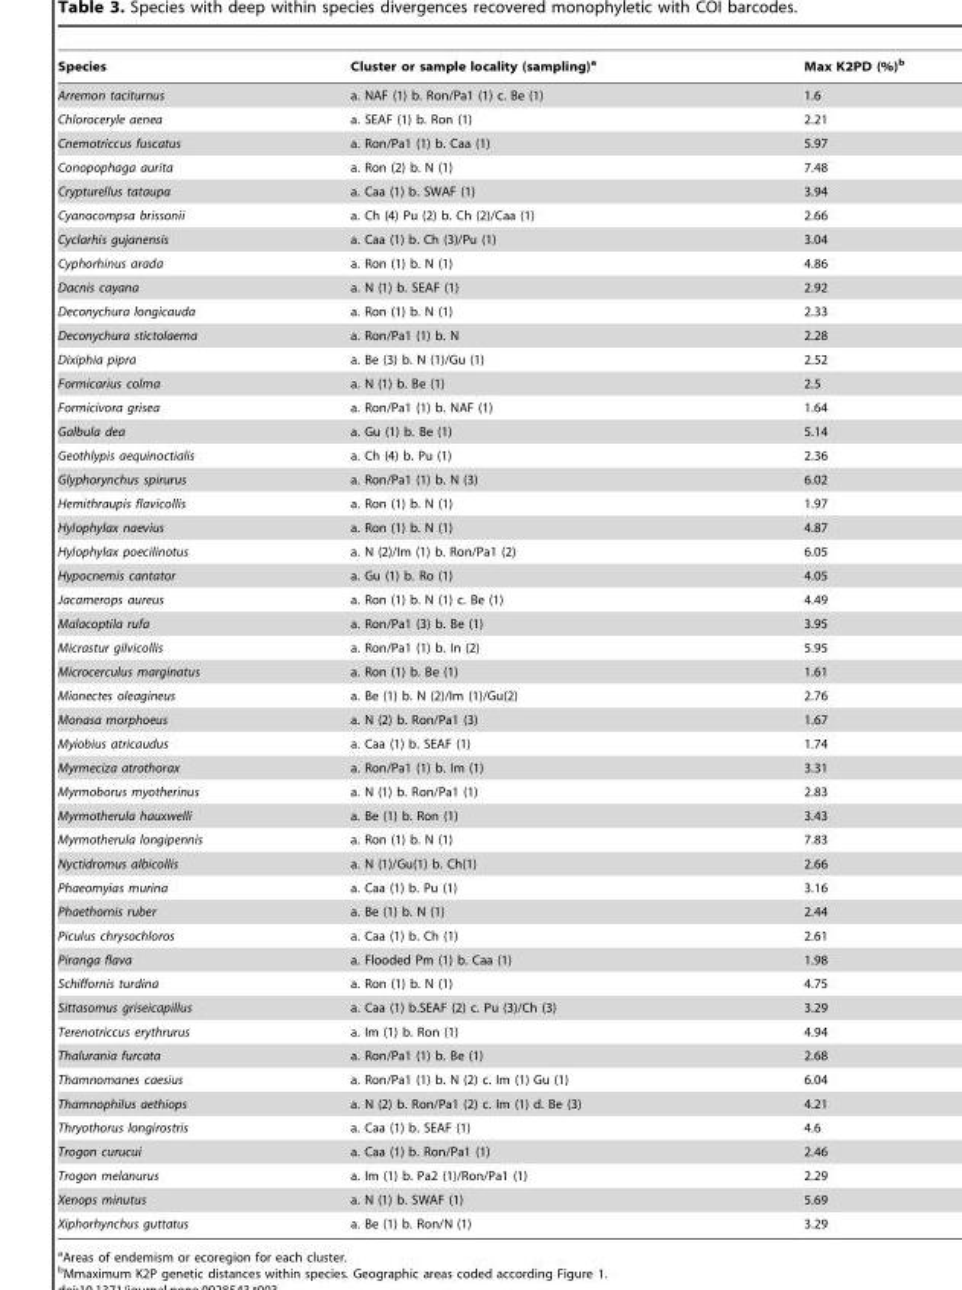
<table><thead><tr><td>Species</td><td>Cluster or sample locality (sampling)<sup>a</sup></td><td>Max K2PD (%)<sup>b</sup></td></tr></thead><tbody><tr><td>Arremon taciturnus</td><td>a. NAF (1) b. Ron/Pa1 (1) c. Be (1)</td><td>1.6</td></tr><tr><td>Chloroceryle aenea</td><td>a. SEAF (1) b. Ron (1)</td><td>2.21</td></tr><tr><td>Cnemotriccus fuscatus</td><td>a. Ron/Pa1 (1) b. Caa (1)</td><td>5.97</td></tr><tr><td>Conopophaga aurita</td><td>a. Ron (2) b. N (1)</td><td>7.48</td></tr><tr><td>Crypturellus tataupa</td><td>a. Caa (1) b. SWAF (1)</td><td>3.94</td></tr><tr><td>Cyanocompsa brissonii</td><td>a. Ch (4) Pu (2) b. Ch (2)/Caa (1)</td><td>2.66</td></tr><tr><td>Cyclarhis gujanensis</td><td>a. Caa (1) b. Ch (3)/Pu (1)</td><td>3.04</td></tr><tr><td>Cyphorhinus arada</td><td>a. Ron (1) b. N (1)</td><td>4.86</td></tr><tr><td>Dacnis cayana</td><td>a. N (1) b. SEAF (1)</td><td>2.92</td></tr><tr><td>Deconychura longicauda</td><td>a. Ron (1) b. N (1)</td><td>2.33</td></tr><tr><td>Deconychura stictolaema</td><td>a. Ron/Pa1 (1) b. N</td><td>2.28</td></tr><tr><td>Dixiphia pipra</td><td>a. Be (3) b. N (1)/Gu (1)</td><td>2.52</td></tr><tr><td>Formicarius colma</td><td>a. N (1) b. Be (1)</td><td>2.5</td></tr><tr><td>Formicivora grisea</td><td>a. Ron/Pa1 (1) b. NAF (1)</td><td>1.64</td></tr><tr><td>Galbula dea</td><td>a. Gu (1) b. Be (1)</td><td>5.14</td></tr><tr><td>Geothlypis aequinoctialis</td><td>a. Ch (4) b. Pu (1)</td><td>2.36</td></tr><tr><td>Glyphorynchus spirurus</td><td>a. Ron/Pa1 (1) b. N (3)</td><td>6.02</td></tr><tr><td>Hemithraupis flavicollis</td><td>a. Ron (1) b. N (1)</td><td>1.97</td></tr><tr><td>Hylophylax naevius</td><td>a. Ron (1) b. N (1)</td><td>4.87</td></tr><tr><td>Hylophylax poecilinotus</td><td>a. N (2)/Im (1) b. Ron/Pa1 (2)</td><td>6.05</td></tr><tr><td>Hypocnemis cantator</td><td>a. Gu (1) b. Ro (1)</td><td>4.05</td></tr><tr><td>Jacamerops aureus</td><td>a. Ron (1) b. N (1) c. Be (1)</td><td>4.49</td></tr><tr><td>Malacoptila rufa</td><td>a. Ron/Pa1 (3) b. Be (1)</td><td>3.95</td></tr><tr><td>Micrastur gilvicollis</td><td>a. Ron/Pa1 (1) b. In (2)</td><td>5.95</td></tr><tr><td>Microcerculus marginatus</td><td>a. Ron (1) b. Be (1)</td><td>1.61</td></tr><tr><td>Mionectes oleagineus</td><td>a. Be (1) b. N (2)/Im (1)/Gu(2)</td><td>2.76</td></tr><tr><td>Monasa morphoeus</td><td>a. N (2) b. Ron/Pa1 (3)</td><td>1.67</td></tr><tr><td>Myiobius atricaudus</td><td>a. Caa (1) b. SEAF (1)</td><td>1.74</td></tr><tr><td>Myrmeciza atrothorax</td><td>a. Ron/Pa1 (1) b. Im (1)</td><td>3.31</td></tr><tr><td>Myrmoborus myotherinus</td><td>a. N (1) b. Ron/Pa1 (1)</td><td>2.83</td></tr><tr><td>Myrmotherula hauxwelli</td><td>a. Be (1) b. Ron (1)</td><td>3.43</td></tr><tr><td>Myrmotherula longipennis</td><td>a. Ron (1) b. N (1)</td><td>7.83</td></tr><tr><td>Nyctidromus albicollis</td><td>a. N (1)/Gu(1) b. Ch(1)</td><td>2.66</td></tr><tr><td>Phaeomyias murina</td><td>a. Caa (1) b. Pu (1)</td><td>3.16</td></tr><tr><td>Phaethornis ruber</td><td>a. Be (1) b. N (1)</td><td>2.44</td></tr><tr><td>Piculus chrysochloros</td><td>a. Caa (1) b. Ch (1)</td><td>2.61</td></tr><tr><td>Piranga flava</td><td>a. Flooded Pm (1) b. Caa (1)</td><td>1.98</td></tr><tr><td>Schiffornis turdina</td><td>a. Ron (1) b. N (1)</td><td>4.75</td></tr><tr><td>Sittasomus griseicapillus</td><td>a. Caa (1) b.SEAF (2) c. Pu (3)/Ch (3)</td><td>3.29</td></tr><tr><td>Terenotriccus erythrurus</td><td>a. Im (1) b. Ron (1)</td><td>4.94</td></tr><tr><td>Thalurania furcata</td><td>a. Ron/Pa1 (1) b. Be (1)</td><td>2.68</td></tr><tr><td>Thamnomanes caesius</td><td>a. Ron/Pa1 (1) b. N (2) c. Im (1) Gu (1)</td><td>6.04</td></tr><tr><td>Thamnophilus aethiops</td><td>a. N (2) b. Ron/Pa1 (2) c. Im (1) d. Be (3)</td><td>4.21</td></tr><tr><td>Thryothorus longirostris</td><td>a. Caa (1) b. SEAF (1)</td><td>4.6</td></tr><tr><td>Trogon curucui</td><td>a. Caa (1) b. Ron/Pa1 (1)</td><td>2.46</td></tr><tr><td>Trogon melanurus</td><td>a. Im (1) b. Pa2 (1)/Ron/Pa1 (1)</td><td>2.29</td></tr><tr><td>Xenops minutus</td><td>a. N (1) b. SWAF (1)</td><td>5.69</td></tr><tr><td>Xiphorhynchus guttatus</td><td>a. Be (1) b. Ron/N (1)</td><td>3.29</td></tr></tbody></table>